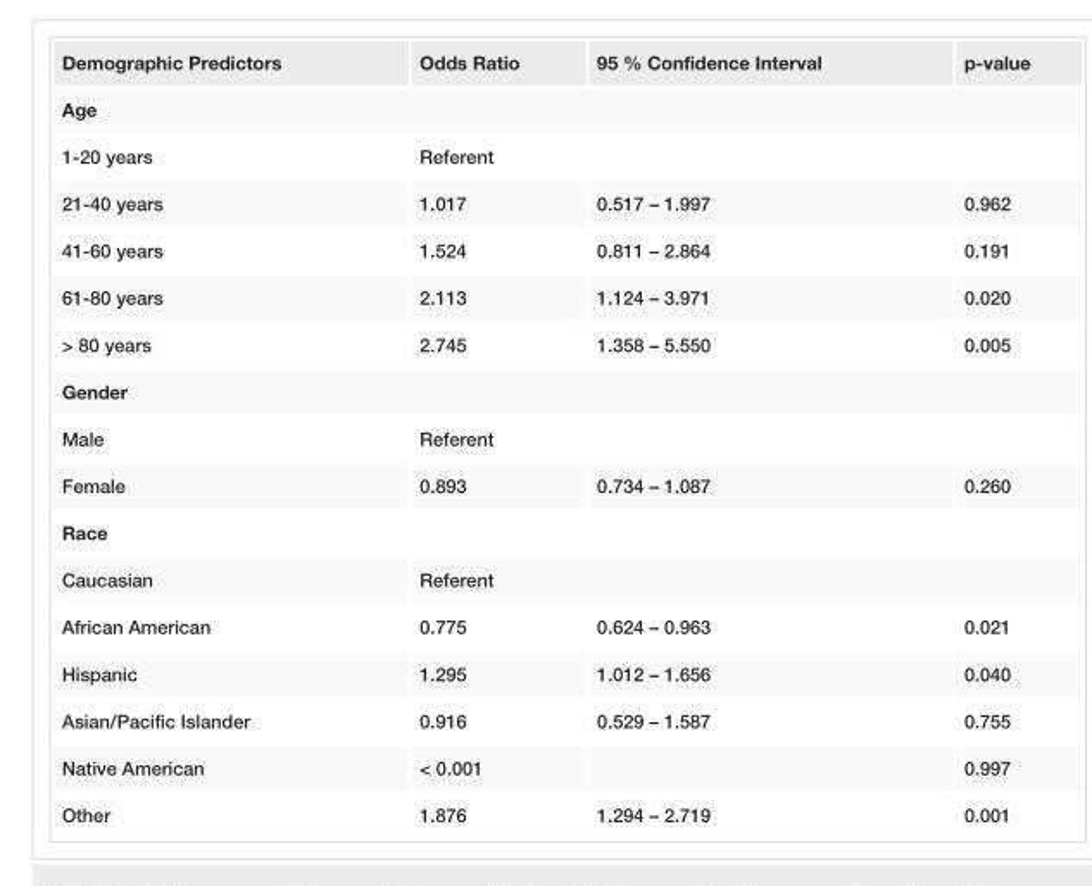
<table><tbody><tr><td>Demographic Predictors</td><td>Odds Ratio</td><td>95 % Confidence Interval</td><td>p-value</td></tr><tr><td colspan="4">Age</td></tr><tr><td>1-20 years</td><td colspan="3">Referent</td></tr><tr><td>21-40 years</td><td>1.017</td><td>0.517 – 1.997</td><td>0.962</td></tr><tr><td>41-60 years</td><td>1.524</td><td>0.811 – 2.864</td><td>0.191</td></tr><tr><td>61-80 years</td><td>2.113</td><td>1.124 – 3.971</td><td>0.020</td></tr><tr><td>&gt; 80 years</td><td>2.745</td><td>1.358 – 5.550</td><td>0.005</td></tr><tr><td colspan="4">Gender</td></tr><tr><td>Male</td><td colspan="3">Referent</td></tr><tr><td>Female</td><td>0.893</td><td>0.734 – 1.087</td><td>0.260</td></tr><tr><td colspan="4">Race</td></tr><tr><td>Caucasian</td><td colspan="3">Referent</td></tr><tr><td>African American</td><td>0.775</td><td>0.624 – 0.963</td><td>0.021</td></tr><tr><td>Hispanic</td><td>1.295</td><td>1.012 – 1.656</td><td>0.040</td></tr><tr><td>Asian/Pacific Islander</td><td>0.916</td><td>0.529 – 1.587</td><td>0.755</td></tr><tr><td>Native American</td><td>&lt; 0.001</td><td></td><td>0.997</td></tr><tr><td>Other</td><td>1.876</td><td>1.294 – 2.719</td><td>0.001</td></tr></tbody></table>